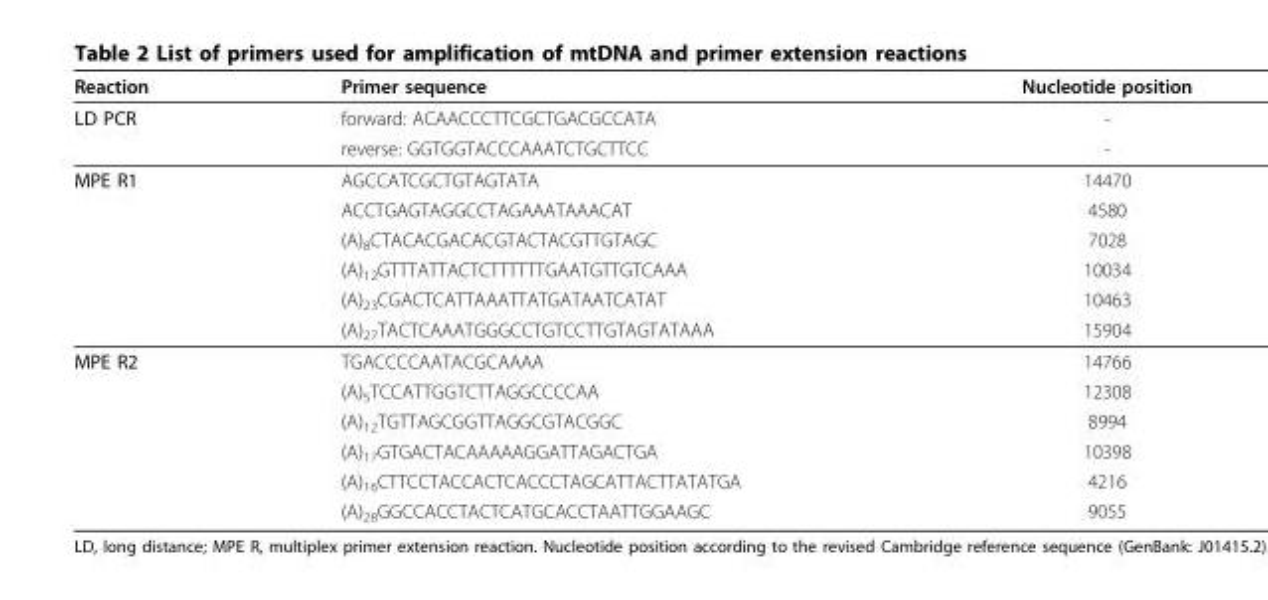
<table><thead><tr><td>Reaction</td><td>Primer sequence</td><td>Nucleotide position</td></tr></thead><tbody><tr><td rowspan="2">LD PCR</td><td>forward: ACAACCCTTCGCTGACGCCATA</td><td>-</td></tr><tr><td>reverse: GGTGGTACCCAAATCTGCTTCC</td><td>-</td></tr><tr><td rowspan="6">MPE R1</td><td>AGCCATCGCTGTAGTATA</td><td>14470</td></tr><tr><td>ACCTGAGTAGGCCTAGAAATAAACAT</td><td>4580</td></tr><tr><td>(A)<sub>8</sub>CTACACGACACGTACTACGTTGTAGC</td><td>7028</td></tr><tr><td>(A)<sub>12</sub>GTTTATTACTCTTTTTTGAATGTTGTCAAA</td><td>10034</td></tr><tr><td>(A)<sub>23</sub>CGACTCATTAAATTATGATAATCATAT</td><td>10463</td></tr><tr><td>(A)<sub>27</sub>TACTCAAATGGGCCTGTCCTTGTAGTATAAA</td><td>15904</td></tr><tr><td rowspan="6">MPE R2</td><td>TGACCCCAATACGCAAAA</td><td>14766</td></tr><tr><td>(A)<sub>5</sub>TCCATTGGTCTTAGGCCCCAA</td><td>12308</td></tr><tr><td>(A)<sub>12</sub>TGTTAGCGGTTAGGCGTACGGC</td><td>8994</td></tr><tr><td>(A)<sub>17</sub>GTGACTACAAAAAGGATTAGACTGA</td><td>10398</td></tr><tr><td>(A)<sub>16</sub>CTTCCTACCACTCACCCTAGCATTACTTATATGA</td><td>4216</td></tr><tr><td>(A)<sub>28</sub>GGCCACCTACTCATGCACCTAATTGGAAGC</td><td>9055</td></tr></tbody></table>